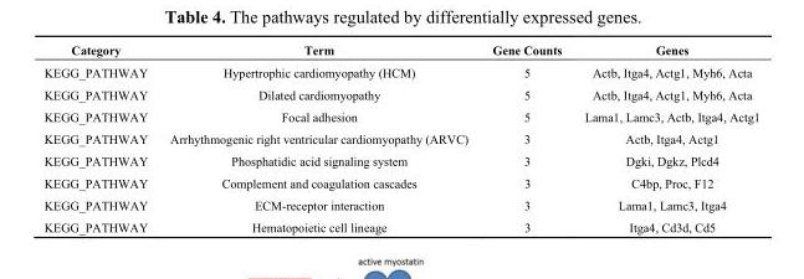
<table><thead><tr><td>Category</td><td>Term</td><td>Gene Counts</td><td>Genes</td></tr></thead><tbody><tr><td>KEGG_PATHWAY</td><td>Hypertrophic cardiomyopathy (HCM)</td><td>5</td><td>Actb, Itga4, Actg1, Myh6, Acta</td></tr><tr><td>KEGG_PATHWAY</td><td>Dilated cardiomyopathy</td><td>5</td><td>Actb, Itga4, Actg1, Myh6, Acta</td></tr><tr><td>KEGG_PATHWAY</td><td>Focal adhesion</td><td>5</td><td>Lama1, Lamc3, Actb, Itga4, Actg1</td></tr><tr><td>KEGG_PATHWAY</td><td>Arrhythmogenic right ventricular cardiomyopathy (ARVC)</td><td>3</td><td>Actb, Itga4, Actg1</td></tr><tr><td>KEGG_PATHWAY</td><td>Phosphatidic acid signaling system</td><td>3</td><td>Dgki, Dgkz, Plcd4</td></tr><tr><td>KEGG_PATHWAY</td><td>Complement and coagulation cascades</td><td>3</td><td>C4bp, Proc, F12</td></tr><tr><td>KEGG_PATHWAY</td><td>ECM-receptor interaction</td><td>3</td><td>Lama1, Lamc3, Itga4</td></tr><tr><td>KEGG_PATHWAY</td><td>Hematopoietic cell lineage</td><td>3</td><td>Itga4, Cd3d, Cd5</td></tr></tbody></table>